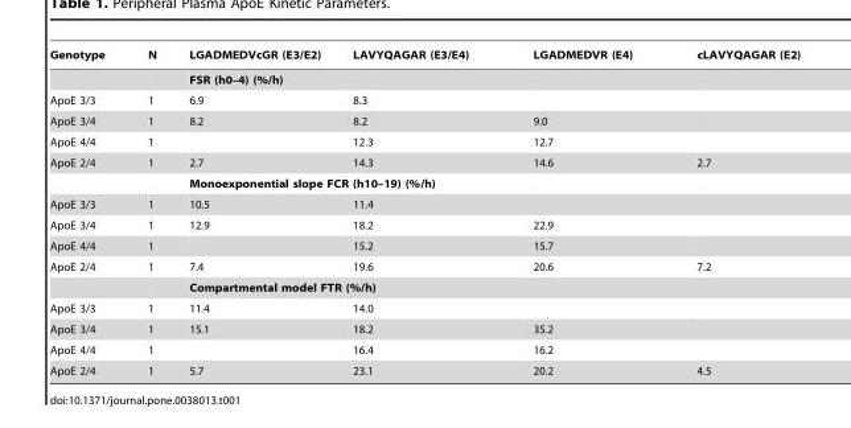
<table><thead><tr><td>Genotype</td><td>N</td><td>LGADMEDVcGR (E3/E2)</td><td>LAVYQAGAR (E3/E4)</td><td>LGADMEDVR (E4)</td><td>cLAVYQAGAR (E2)</td></tr></thead><tbody><tr><td></td><td></td><td colspan="4">FSR (h0–4) (%/h)</td></tr><tr><td>ApoE 3/3</td><td>1</td><td>6.9</td><td>8.3</td><td></td><td></td></tr><tr><td>ApoE 3/4</td><td>1</td><td>8.2</td><td>8.2</td><td>9.0</td><td></td></tr><tr><td>ApoE 4/4</td><td>1</td><td></td><td>12.3</td><td>12.7</td><td></td></tr><tr><td rowspan="2">ApoE 2/4</td><td>1</td><td>2.7</td><td>14.3</td><td>14.6</td><td>2.7</td></tr><tr><td></td><td colspan="4">Monoexponential slope FCR (h10–19) (%/h)</td></tr><tr><td>ApoE 3/3</td><td>1</td><td>10.5</td><td>11.4</td><td></td><td></td></tr><tr><td>ApoE 3/4</td><td>1</td><td>12.9</td><td>18.2</td><td>22.9</td><td></td></tr><tr><td>ApoE 4/4</td><td>1</td><td></td><td>15.2</td><td>15.7</td><td></td></tr><tr><td rowspan="2">ApoE 2/4</td><td>1</td><td>7.4</td><td>19.6</td><td>20.6</td><td>7.2</td></tr><tr><td></td><td colspan="4">Compartmental model FTR (%/h)</td></tr><tr><td>ApoE 3/3</td><td>1</td><td>11.4</td><td>14.0</td><td></td><td></td></tr><tr><td>ApoE 3/4</td><td>1</td><td>15.1</td><td>18.2</td><td>35.2</td><td></td></tr><tr><td>ApoE 4/4</td><td>1</td><td></td><td>16.4</td><td>16.2</td><td></td></tr><tr><td>ApoE 2/4</td><td>1</td><td>5.7</td><td>23.1</td><td>20.2</td><td>4.5</td></tr></tbody></table>